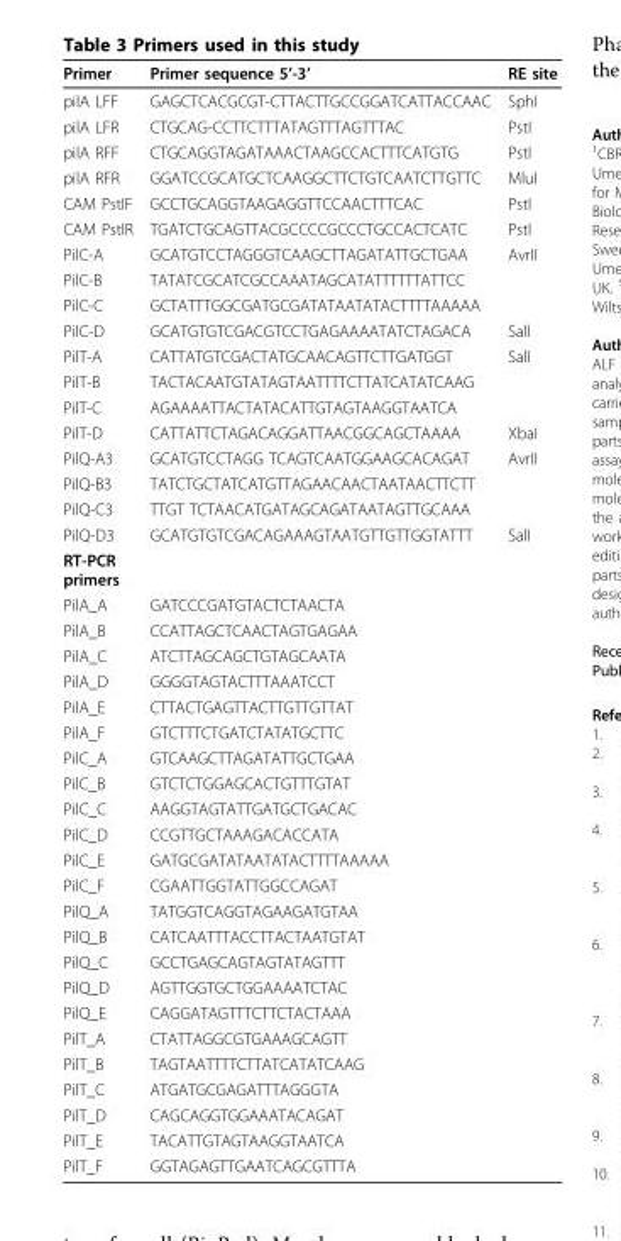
<table><thead><tr><td>Primer</td><td>Primer sequence 5’-3’</td><td>RE site</td></tr></thead><tbody><tr><td>pilA LFF</td><td>GAGCTCACGCGT-CTTACTTGCCGGATCATTACCAAC</td><td>SphI</td></tr><tr><td>pilA LFR</td><td>CTGCAG-CCTTCTTTATAGTTTAGTTTAC</td><td>PstI</td></tr><tr><td>pilA RFF</td><td>CTGCAGGTAGATAAACTAAGCCACTTTCATGTG</td><td>PstI</td></tr><tr><td>pilA RFR</td><td>GGATCCGCATGCTCAAGGCTTCTGTCAATCTTGTTC</td><td>MluI</td></tr><tr><td>CAM PstIF</td><td>GCCTGCAGGTAAGAGGTTCCAACTTTCAC</td><td>PstI</td></tr><tr><td>CAM PstIR</td><td>TGATCTGCAGTTACGCCCCGCCCTGCCACTCATC</td><td>PstI</td></tr><tr><td>PilC-A</td><td>GCATGTCCTAGGGTCAAGCTTAGATATTGCTGAA</td><td>AvrII</td></tr><tr><td>PilC-B</td><td>TATATCGCATCGCCAAATAGCATATTTTTTATTCC</td><td></td></tr><tr><td>PilC-C</td><td>GCTATTTGGCGATGCGATATAATATACTTTTAAAAA</td><td></td></tr><tr><td>PilC-D</td><td>GCATGTGTCGACGTCCTGAGAAAATATCTAGACA</td><td>SalI</td></tr><tr><td>PilT-A</td><td>CATTATGTCGACTATGCAACAGTTCTTGATGGT</td><td>SalI</td></tr><tr><td>PilT-B</td><td>TACTACAATGTATAGTAATTTTCTTATCATATCAAG</td><td></td></tr><tr><td>PilT-C</td><td>AGAAAATTACTATACATTGTAGTAAGGTAATCA</td><td></td></tr><tr><td>PilT-D</td><td>CATTATTCTAGACAGGATTAACGGCAGCTAAAA</td><td>XbaI</td></tr><tr><td>PilQ-A3</td><td>GCATGTCCTAGG TCAGTCAATGGAAGCACAGAT</td><td>AvrII</td></tr><tr><td>PilQ-B3</td><td>TATCTGCTATCATGTTAGAACAACTAATAACTTCTT</td><td></td></tr><tr><td>PilQ-C3</td><td>TTGT TCTAACATGATAGCAGATAATAGTTGCAAA</td><td></td></tr><tr><td>PilQ-D3</td><td>GCATGTGTCGACAGAAAGTAATGTTGTTGGTATTT</td><td>SalI</td></tr><tr><td colspan="3">RT-PCR primers</td></tr><tr><td>PilA_A</td><td>GATCCCGATGTACTCTAACTA</td><td></td></tr><tr><td>PilA_B</td><td>CCATTAGCTCAACTAGTGAGAA</td><td></td></tr><tr><td>PilA_C</td><td>ATCTTAGCAGCTGTAGCAATA</td><td></td></tr><tr><td>PilA_D</td><td>GGGGTAGTACTTTAAATCCT</td><td></td></tr><tr><td>PilA_E</td><td>CTTACTGAGTTACTTGTTGTTAT</td><td></td></tr><tr><td>PilA_F</td><td>GTCTTTCTGATCTATATGCTTC</td><td></td></tr><tr><td>PilC_A</td><td>GTCAAGCTTAGATATTGCTGAA</td><td></td></tr><tr><td>PilC_B</td><td>GTCTCTGGAGCACTGTTTGTAT</td><td></td></tr><tr><td>PilC_C</td><td>AAGGTAGTATTGATGCTGACAC</td><td></td></tr><tr><td>PilC_D</td><td>CCGTTGCTAAAGACACCATA</td><td></td></tr><tr><td>PilC_E</td><td>GATGCGATATAATATACTTTTAAAAA</td><td></td></tr><tr><td>PilC_F</td><td>CGAATTGGTATTGGCCAGAT</td><td></td></tr><tr><td>PilQ_A</td><td>TATGGTCAGGTAGAAGATGTAA</td><td></td></tr><tr><td>PilQ_B</td><td>CATCAATTTACCTTACTAATGTAT</td><td></td></tr><tr><td>PilQ_C</td><td>GCCTGAGCAGTAGTATAGTTT</td><td></td></tr><tr><td>PilQ_D</td><td>AGTTGGTGCTGGAAAATCTAC</td><td></td></tr><tr><td>PilQ_E</td><td>CAGGATAGTTTCTTCTACTAAA</td><td></td></tr><tr><td>PilT_A</td><td>CTATTAGGCGTGAAAGCAGTT</td><td></td></tr><tr><td>PilT_B</td><td>TAGTAATTTTCTTATCATATCAAG</td><td></td></tr><tr><td>PilT_C</td><td>ATGATGCGAGATTTAGGGTA</td><td></td></tr><tr><td>PilT_D</td><td>CAGCAGGTGGAAATACAGAT</td><td></td></tr><tr><td>PilT_E</td><td>TACATTGTAGTAAGGTAATCA</td><td></td></tr><tr><td>PilT_F</td><td>GGTAGAGTTGAATCAGCGTTTA</td><td></td></tr></tbody></table>